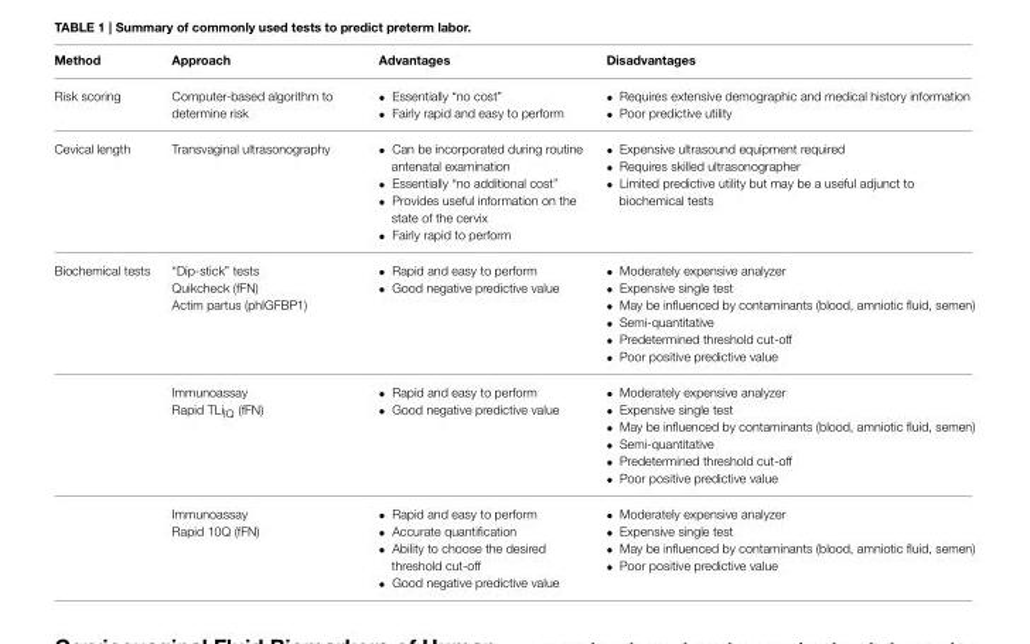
<table><thead><tr><td>Method</td><td>Approach</td><td>Advantages</td><td>Disadvantages</td></tr></thead><tbody><tr><td>Risk scoring</td><td>Computer-based algorithm to determine risk</td><td>• Essentially “no cost” • Fairly rapid and easy to perform</td><td>• Requires extensive demographic and medical history information • Poor predictive utility</td></tr><tr><td>Cevical length</td><td>Transvaginal ultrasonography</td><td>• Can be incorporated during routine antenatal examination • Essentially “no additional cost” • Provides useful information on the state of the cervix • Fairly rapid to perform</td><td>• Expensive ultrasound equipment required • Requires skilled ultrasonographer • Limited predictive utility but may be a useful adjunct to biochemical tests</td></tr><tr><td rowspan="3">Biochemical tests</td><td>“Dip-stick” tests Quikcheck (fFN) Actim partus (phIGFBP1)</td><td>• Rapid and easy to perform • Good negative predictive value</td><td>• Moderately expensive analyzer • Expensive single test • May be influenced by contaminants (blood, amniotic fluid, semen) • Semi-quantitative • Predetermined threshold cut-off • Poor positive predictive value</td></tr><tr><td>Immunoassay Rapid TLi<sub>IQ</sub> (fFN)</td><td>• Rapid and easy to perform • Good negative predictive value</td><td>• Moderately expensive analyzer • Expensive single test • May be influenced by contaminants (blood, amniotic fluid, semen) • Semi-quantitative • Predetermined threshold cut-off • Poor positive predictive value</td></tr><tr><td>Immunoassay Rapid 10Q (fFN)</td><td>• Rapid and easy to perform • Accurate quantification • Ability to choose the desired threshold cut-off • Good negative predictive value</td><td>• Moderately expensive analyzer • Expensive single test • May be influenced by contaminants (blood, amniotic fluid, semen) • Poor positive predictive value</td></tr></tbody></table>